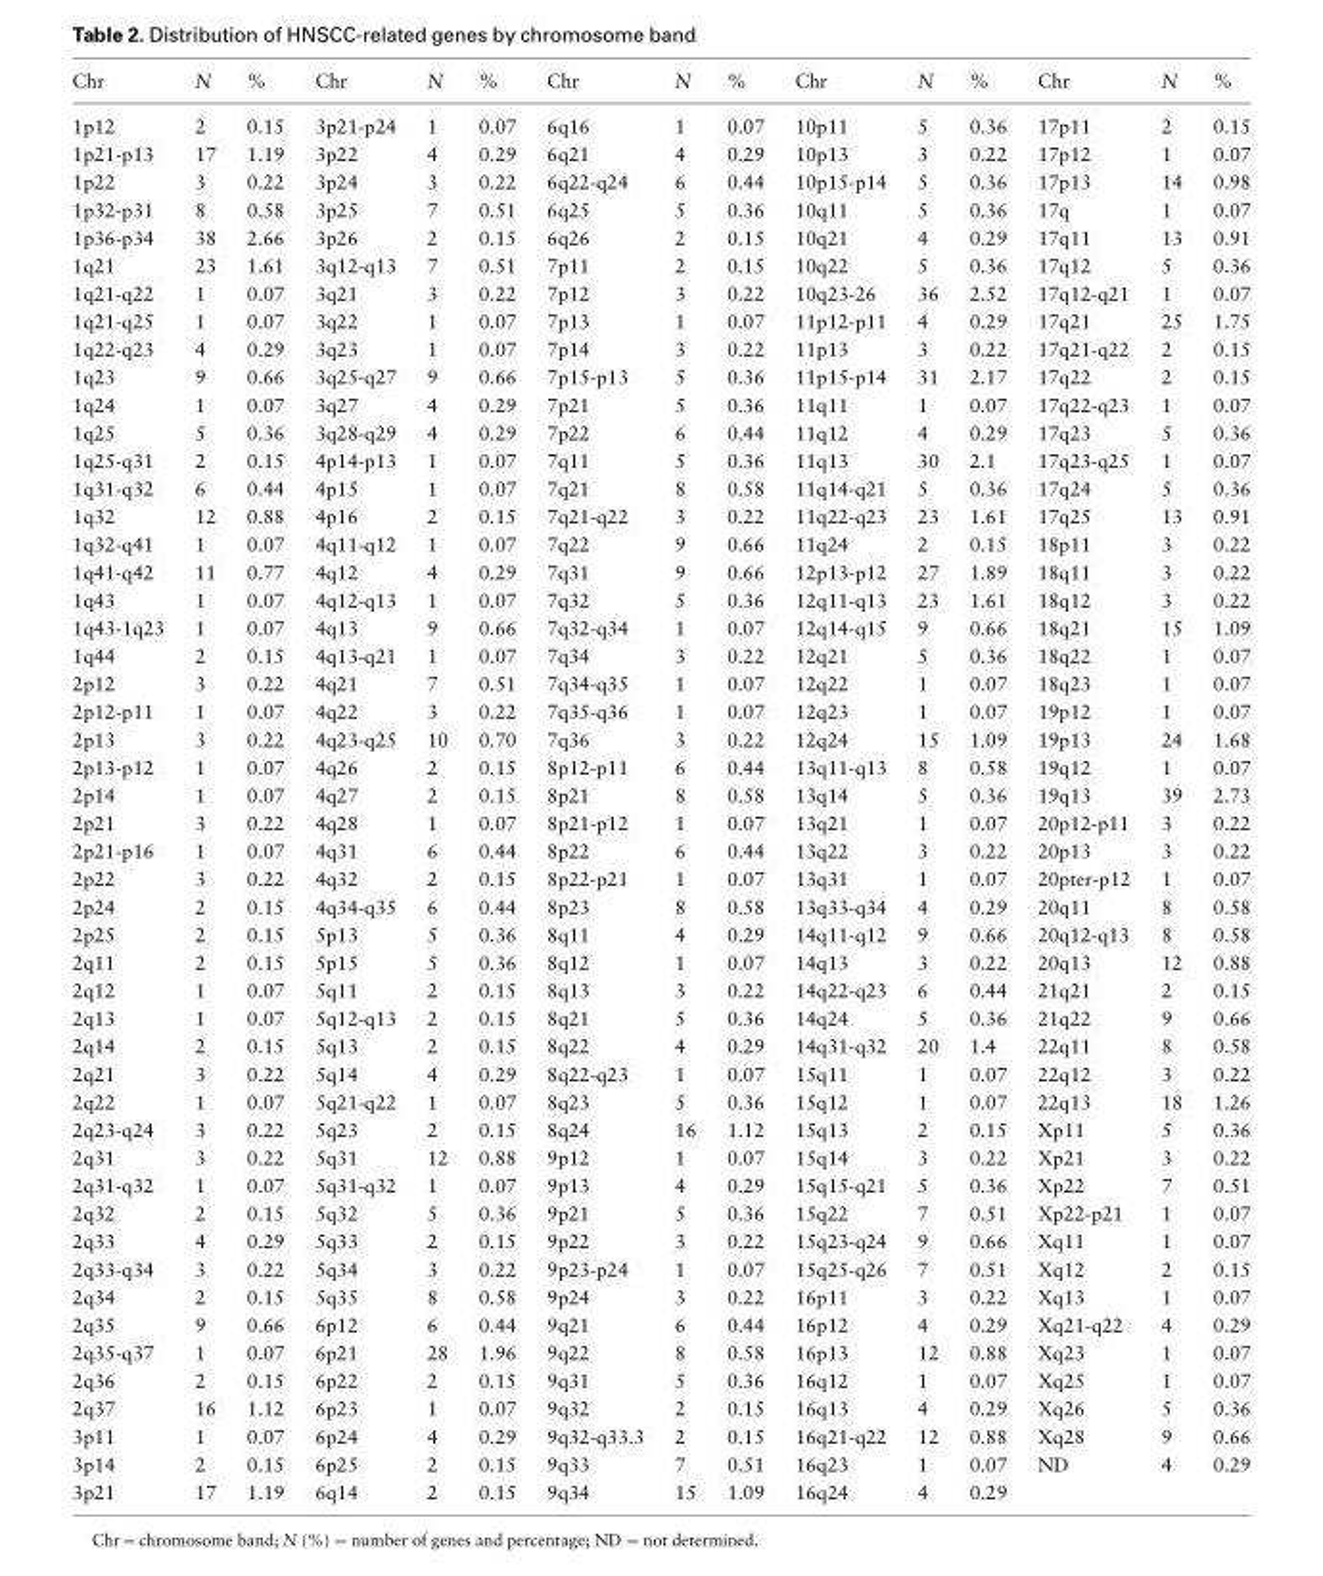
<table><thead><tr><td>Chr</td><td>N</td><td>%</td><td>Chr</td><td>N</td><td>%</td><td>Chr</td><td>N</td><td>%</td><td>Chr</td><td>N</td><td>%</td><td>Chr</td><td>N</td><td>%</td></tr></thead><tbody><tr><td>1p12</td><td>2</td><td>0.15</td><td>3p21-p24</td><td>1</td><td>0.07</td><td>6q16</td><td>1</td><td>0.07</td><td>10p11</td><td>5</td><td>0.36</td><td>17p11</td><td>2</td><td>0.15</td></tr><tr><td>1p21-p13</td><td>17</td><td>1.19</td><td>3p22</td><td>4</td><td>0.29</td><td>6q21</td><td>4</td><td>0.29</td><td>10p13</td><td>3</td><td>0.22</td><td>17p12</td><td>1</td><td>0.07</td></tr><tr><td>1p22</td><td>3</td><td>0.22</td><td>3p24</td><td>3</td><td>0.22</td><td>6q22-q24</td><td>6</td><td>0.44</td><td>10p15-p14</td><td>5</td><td>0.36</td><td>17p13</td><td>14</td><td>0.98</td></tr><tr><td>1p32-p31</td><td>8</td><td>0.58</td><td>3p25</td><td>7</td><td>0.51</td><td>6q25</td><td>5</td><td>0.36</td><td>10q11</td><td>5</td><td>0.36</td><td>17q</td><td>1</td><td>0.07</td></tr><tr><td>1p36-p34</td><td>38</td><td>2.66</td><td>3p26</td><td>2</td><td>0.15</td><td>6q26</td><td>2</td><td>0.15</td><td>10q21</td><td>4</td><td>0.29</td><td>17q11</td><td>13</td><td>0.91</td></tr><tr><td>1q21</td><td>23</td><td>1.61</td><td>3q12-q13</td><td>7</td><td>0.51</td><td>7p11</td><td>2</td><td>0.15</td><td>10q22</td><td>5</td><td>0.36</td><td>17q12</td><td>5</td><td>0.36</td></tr><tr><td>1q21-q22</td><td>1</td><td>0.07</td><td>3q21</td><td>3</td><td>0.22</td><td>7p12</td><td>3</td><td>0.22</td><td>10q23-26</td><td>36</td><td>2.52</td><td>17q12-q21</td><td>1</td><td>0.07</td></tr><tr><td>1q21-q25</td><td>1</td><td>0.07</td><td>3q22</td><td>1</td><td>0.07</td><td>7p13</td><td>1</td><td>0.07</td><td>11p12-p11</td><td>4</td><td>0.29</td><td>17q21</td><td>25</td><td>1.75</td></tr><tr><td>1q22-q23</td><td>4</td><td>0.29</td><td>3q23</td><td>1</td><td>0.07</td><td>7p14</td><td>3</td><td>0.22</td><td>11p13</td><td>3</td><td>0.22</td><td>17q21-q22</td><td>2</td><td>0.15</td></tr><tr><td>1q23</td><td>9</td><td>0.66</td><td>3q25-q27</td><td>9</td><td>0.66</td><td>7p15-p13</td><td>5</td><td>0.36</td><td>11p15-p14</td><td>31</td><td>2.17</td><td>17q22</td><td>2</td><td>0.15</td></tr><tr><td>1q24</td><td>1</td><td>0.07</td><td>3q27</td><td>4</td><td>0.29</td><td>7p21</td><td>5</td><td>0.36</td><td>11q11</td><td>1</td><td>0.07</td><td>17q22-q23</td><td>1</td><td>0.07</td></tr><tr><td>1q25</td><td>5</td><td>0.36</td><td>3q28-q29</td><td>4</td><td>0.29</td><td>7p22</td><td>6</td><td>0.44</td><td>11q12</td><td>4</td><td>0.29</td><td>17q23</td><td>5</td><td>0.36</td></tr><tr><td>1q25-q31</td><td>2</td><td>0.15</td><td>4p14-p13</td><td>1</td><td>0.07</td><td>7q11</td><td>5</td><td>0.36</td><td>11q13</td><td>30</td><td>2.1</td><td>17q23-q25</td><td>1</td><td>0.07</td></tr><tr><td>1q31-q32</td><td>6</td><td>0.44</td><td>4p15</td><td>1</td><td>0.07</td><td>7q21</td><td>8</td><td>0.58</td><td>11q14-q21</td><td>5</td><td>0.36</td><td>17q24</td><td>5</td><td>0.36</td></tr><tr><td>1q32</td><td>12</td><td>0.88</td><td>4p16</td><td>2</td><td>0.15</td><td>7q21-q22</td><td>3</td><td>0.22</td><td>11q22-q23</td><td>23</td><td>1.61</td><td>17q25</td><td>13</td><td>0.91</td></tr><tr><td>1q32-q41</td><td>1</td><td>0.07</td><td>4q11-q12</td><td>1</td><td>0.07</td><td>7q22</td><td>9</td><td>0.66</td><td>11q24</td><td>2</td><td>0.15</td><td>18p11</td><td>3</td><td>0.22</td></tr><tr><td>1q41-q42</td><td>11</td><td>0.77</td><td>4q12</td><td>4</td><td>0.29</td><td>7q31</td><td>9</td><td>0.66</td><td>12p13-p12</td><td>27</td><td>1.89</td><td>18q11</td><td>3</td><td>0.22</td></tr><tr><td>1q43</td><td>1</td><td>0.07</td><td>4q12-q13</td><td>1</td><td>0.07</td><td>7q32</td><td>5</td><td>0.36</td><td>12q11-q13</td><td>23</td><td>1.61</td><td>18q12</td><td>3</td><td>0.22</td></tr><tr><td>1q43-1q23</td><td>1</td><td>0.07</td><td>4q13</td><td>9</td><td>0.66</td><td>7q32-q34</td><td>1</td><td>0.07</td><td>12q14-q15</td><td>9</td><td>0.66</td><td>18q21</td><td>15</td><td>1.09</td></tr><tr><td>1q44</td><td>2</td><td>0.15</td><td>4q13-q21</td><td>1</td><td>0.07</td><td>7q34</td><td>3</td><td>0.22</td><td>12q21</td><td>5</td><td>0.36</td><td>18q22</td><td>1</td><td>0.07</td></tr><tr><td>2p12</td><td>3</td><td>0.22</td><td>4q21</td><td>7</td><td>0.51</td><td>7q34-q35</td><td>1</td><td>0.07</td><td>12q22</td><td>1</td><td>0.07</td><td>18q23</td><td>1</td><td>0.07</td></tr><tr><td>2p12-p11</td><td>1</td><td>0.07</td><td>4q22</td><td>3</td><td>0.22</td><td>7q35-q36</td><td>1</td><td>0.07</td><td>12q23</td><td>1</td><td>0.07</td><td>19p12</td><td>1</td><td>0.07</td></tr><tr><td>2p13</td><td>3</td><td>0.22</td><td>4q23-q25</td><td>10</td><td>0.70</td><td>7q36</td><td>3</td><td>0.22</td><td>12q24</td><td>15</td><td>1.09</td><td>19p13</td><td>24</td><td>1.68</td></tr><tr><td>2p13-p12</td><td>1</td><td>0.07</td><td>4q26</td><td>2</td><td>0.15</td><td>8p12-p11</td><td>6</td><td>0.44</td><td>13q11-q13</td><td>8</td><td>0.58</td><td>19q12</td><td>1</td><td>0.07</td></tr><tr><td>2p14</td><td>1</td><td>0.07</td><td>4q27</td><td>2</td><td>0.15</td><td>8p21</td><td>8</td><td>0.58</td><td>13q14</td><td>5</td><td>0.36</td><td>19q13</td><td>39</td><td>2.73</td></tr><tr><td>2p21</td><td>3</td><td>0.22</td><td>4q28</td><td>1</td><td>0.07</td><td>8p21-p12</td><td>1</td><td>0.07</td><td>13q21</td><td>1</td><td>0.07</td><td>20p12-p11</td><td>3</td><td>0.22</td></tr><tr><td>2p21-p16</td><td>1</td><td>0.07</td><td>4q31</td><td>6</td><td>0.44</td><td>8p22</td><td>6</td><td>0.44</td><td>13q22</td><td>3</td><td>0.22</td><td>20p13</td><td>3</td><td>0.22</td></tr><tr><td>2p22</td><td>3</td><td>0.22</td><td>4q32</td><td>2</td><td>0.15</td><td>8p22-p21</td><td>1</td><td>0.07</td><td>13q31</td><td>1</td><td>0.07</td><td>20pter-p12</td><td>1</td><td>0.07</td></tr><tr><td>2p24</td><td>2</td><td>0.15</td><td>4q34-q35</td><td>6</td><td>0.44</td><td>8p23</td><td>8</td><td>0.58</td><td>13q33-q34</td><td>4</td><td>0.29</td><td>20q11</td><td>8</td><td>0.58</td></tr><tr><td>2p25</td><td>2</td><td>0.15</td><td>5p13</td><td>5</td><td>0.36</td><td>8q11</td><td>4</td><td>0.29</td><td>14q11-q12</td><td>9</td><td>0.66</td><td>20q12-q13</td><td>8</td><td>0.58</td></tr><tr><td>2q11</td><td>2</td><td>0.15</td><td>5p15</td><td>5</td><td>0.36</td><td>8q12</td><td>1</td><td>0.07</td><td>14q13</td><td>3</td><td>0.22</td><td>20q13</td><td>12</td><td>0.88</td></tr><tr><td>2q12</td><td>1</td><td>0.07</td><td>5q11</td><td>2</td><td>0.15</td><td>8q13</td><td>3</td><td>0.22</td><td>14q22-q23</td><td>6</td><td>0.44</td><td>21q21</td><td>2</td><td>0.15</td></tr><tr><td>2q13</td><td>1</td><td>0.07</td><td>5q12-q13</td><td>2</td><td>0.15</td><td>8q21</td><td>5</td><td>0.36</td><td>14q24</td><td>5</td><td>0.36</td><td>21q22</td><td>9</td><td>0.66</td></tr><tr><td>2q14</td><td>2</td><td>0.15</td><td>5q13</td><td>2</td><td>0.15</td><td>8q22</td><td>4</td><td>0.29</td><td>14q31-q32</td><td>20</td><td>1.4</td><td>22q11</td><td>8</td><td>0.58</td></tr><tr><td>2q21</td><td>3</td><td>0.22</td><td>5q14</td><td>4</td><td>0.29</td><td>8q22-q23</td><td>1</td><td>0.07</td><td>15q11</td><td>1</td><td>0.07</td><td>22q12</td><td>3</td><td>0.22</td></tr><tr><td>2q22</td><td>1</td><td>0.07</td><td>5q21-q22</td><td>1</td><td>0.07</td><td>8q23</td><td>5</td><td>0.36</td><td>15q12</td><td>1</td><td>0.07</td><td>22q13</td><td>18</td><td>1.26</td></tr><tr><td>2q23-q24</td><td>3</td><td>0.22</td><td>5q23</td><td>2</td><td>0.15</td><td>8q24</td><td>16</td><td>1.12</td><td>15q13</td><td>2</td><td>0.15</td><td>Xp11</td><td>5</td><td>0.36</td></tr><tr><td>2q31</td><td>3</td><td>0.22</td><td>5q31</td><td>12</td><td>0.88</td><td>9p12</td><td>1</td><td>0.07</td><td>15q14</td><td>3</td><td>0.22</td><td>Xp21</td><td>3</td><td>0.22</td></tr><tr><td>2q31-q32</td><td>1</td><td>0.07</td><td>5q31-q32</td><td>1</td><td>0.07</td><td>9p13</td><td>4</td><td>0.29</td><td>15q15-q21</td><td>5</td><td>0.36</td><td>Xp22</td><td>7</td><td>0.51</td></tr><tr><td>2q32</td><td>2</td><td>0.15</td><td>5q32</td><td>5</td><td>0.36</td><td>9p21</td><td>5</td><td>0.36</td><td>15q22</td><td>7</td><td>0.51</td><td>Xp22-p21</td><td>1</td><td>0.07</td></tr><tr><td>2q33</td><td>4</td><td>0.29</td><td>5q33</td><td>2</td><td>0.15</td><td>9p22</td><td>3</td><td>0.22</td><td>15q23-q24</td><td>9</td><td>0.66</td><td>Xq11</td><td>1</td><td>0.07</td></tr><tr><td>2q33-q34</td><td>3</td><td>0.22</td><td>5q34</td><td>3</td><td>0.22</td><td>9p23-p24</td><td>1</td><td>0.07</td><td>15q25-q26</td><td>7</td><td>0.51</td><td>Xq12</td><td>2</td><td>0.15</td></tr><tr><td>2q34</td><td>2</td><td>0.15</td><td>5q35</td><td>8</td><td>0.58</td><td>9p24</td><td>3</td><td>0.22</td><td>16p11</td><td>3</td><td>0.22</td><td>Xq13</td><td>1</td><td>0.07</td></tr><tr><td>2q35</td><td>9</td><td>0.66</td><td>6p12</td><td>6</td><td>0.44</td><td>9q21</td><td>6</td><td>0.44</td><td>16p12</td><td>4</td><td>0.29</td><td>Xq21-q22</td><td>4</td><td>0.29</td></tr><tr><td>2q35-q37</td><td>1</td><td>0.07</td><td>6p21</td><td>28</td><td>1.96</td><td>9q22</td><td>8</td><td>0.58</td><td>16p13</td><td>12</td><td>0.88</td><td>Xq23</td><td>1</td><td>0.07</td></tr><tr><td>2q36</td><td>2</td><td>0.15</td><td>6p22</td><td>2</td><td>0.15</td><td>9q31</td><td>5</td><td>0.36</td><td>16q12</td><td>1</td><td>0.07</td><td>Xq25</td><td>1</td><td>0.07</td></tr><tr><td>2q37</td><td>16</td><td>1.12</td><td>6p23</td><td>1</td><td>0.07</td><td>9q32</td><td>2</td><td>0.15</td><td>16q13</td><td>4</td><td>0.29</td><td>Xq26</td><td>5</td><td>0.36</td></tr><tr><td>3p11</td><td>1</td><td>0.07</td><td>6p24</td><td>4</td><td>0.29</td><td>9q32-q33.3</td><td>2</td><td>0.15</td><td>16q21-q22</td><td>12</td><td>0.88</td><td>Xq28</td><td>9</td><td>0.66</td></tr><tr><td>3p14</td><td>2</td><td>0.15</td><td>6p25</td><td>2</td><td>0.15</td><td>9q33</td><td>7</td><td>0.51</td><td>16q23</td><td>1</td><td>0.07</td><td>ND</td><td>4</td><td>0.29</td></tr><tr><td>3p21</td><td>17</td><td>1.19</td><td>6q14</td><td>2</td><td>0.15</td><td>9q34</td><td>15</td><td>1.09</td><td>16q24</td><td>4</td><td>0.29</td><td></td><td></td><td></td></tr></tbody></table>